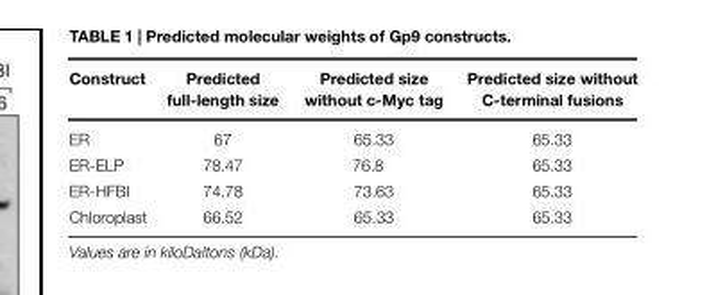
<table><thead><tr><td>Construct</td><td>Predicted full-length size</td><td>Predicted size without c-Myc tag</td><td>Predicted size without C-terminal fusions</td></tr></thead><tbody><tr><td>ER</td><td>67</td><td>65.33</td><td>65.33</td></tr><tr><td>ER-ELP</td><td>78.47</td><td>76.8</td><td>65.33</td></tr><tr><td>ER-HFBI</td><td>74.78</td><td>73.63</td><td>65.33</td></tr><tr><td>Chloroplast</td><td>66.52</td><td>65.33</td><td>65.33</td></tr></tbody></table>